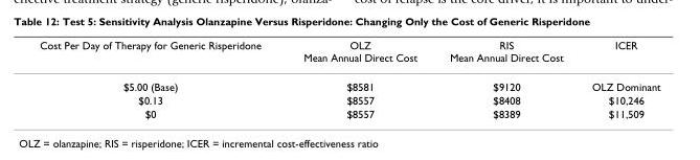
<table><thead><tr><td>Cost Per Day of Therapy for Generic Risperidone</td><td>OLZ Mean Annual Direct Cost</td><td>RIS Mean Annual Direct Cost</td><td>ICER</td></tr></thead><tbody><tr><td>$5.00 (Base)</td><td>$8581</td><td>$9120</td><td>OLZ Dominant</td></tr><tr><td>$0.13</td><td>$8557</td><td>$8408</td><td>$10,246</td></tr><tr><td>$0</td><td>$8557</td><td>$8389</td><td>$11,509</td></tr></tbody></table>